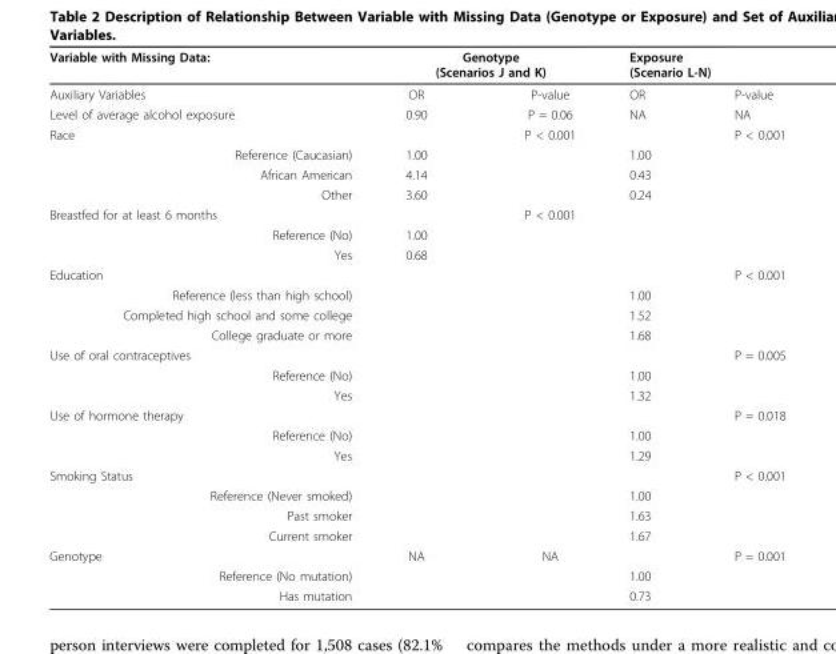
<table><thead><tr><td rowspan="2">Variable with Missing Data: Auxiliary Variables</td><td colspan="2">Genotype (Scenarios J and K)</td><td colspan="2">Exposure (Scenario L-N)</td></tr><tr><td>OR</td><td>P-value</td><td>OR</td><td>P-value</td></tr></thead><tbody><tr><td>Level of average alcohol exposure</td><td>0.90</td><td>P = 0.06</td><td>NA</td><td>NA</td></tr><tr><td>Race</td><td></td><td>P &lt; 0.001</td><td></td><td>P &lt; 0.001</td></tr><tr><td>Reference (Caucasian)</td><td>1.00</td><td></td><td>1.00</td><td></td></tr><tr><td>African American</td><td>4.14</td><td></td><td>0.43</td><td></td></tr><tr><td>Other</td><td>3.60</td><td></td><td>0.24</td><td></td></tr><tr><td>Breastfed for at least 6 months</td><td></td><td>P &lt; 0.001</td><td></td><td></td></tr><tr><td>Reference (No)</td><td>1.00</td><td></td><td></td><td></td></tr><tr><td>Yes</td><td>0.68</td><td></td><td></td><td></td></tr><tr><td>Education</td><td></td><td></td><td></td><td>P &lt; 0.001</td></tr><tr><td>Reference (less than high school)</td><td></td><td></td><td>1.00</td><td></td></tr><tr><td>Completed high school and some college</td><td></td><td></td><td>1.52</td><td></td></tr><tr><td>College graduate or more</td><td></td><td></td><td>1.68</td><td></td></tr><tr><td>Use of oral contraceptives</td><td></td><td></td><td></td><td>P = 0.005</td></tr><tr><td>Reference (No)</td><td></td><td></td><td>1.00</td><td></td></tr><tr><td>Yes</td><td></td><td></td><td>1.32</td><td></td></tr><tr><td>Use of hormone therapy</td><td></td><td></td><td></td><td>P = 0.018</td></tr><tr><td>Reference (No)</td><td></td><td></td><td>1.00</td><td></td></tr><tr><td>Yes</td><td></td><td></td><td>1.29</td><td></td></tr><tr><td>Smoking Status</td><td></td><td></td><td></td><td>P &lt; 0.001</td></tr><tr><td>Reference (Never smoked)</td><td></td><td></td><td>1.00</td><td></td></tr><tr><td>Past smoker</td><td></td><td></td><td>1.63</td><td></td></tr><tr><td>Current smoker</td><td></td><td></td><td>1.67</td><td></td></tr><tr><td>Genotype</td><td>NA</td><td>NA</td><td></td><td>P = 0.001</td></tr><tr><td>Reference (No mutation)</td><td></td><td></td><td>1.00</td><td></td></tr><tr><td>Has mutation</td><td></td><td></td><td>0.73</td><td></td></tr></tbody></table>